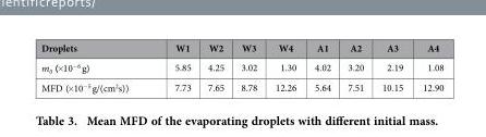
<table><thead><tr><td>Droplets</td><td>W1</td><td>W2</td><td>W3</td><td>W4</td><td>A1</td><td>A2</td><td>A3</td><td>A4</td></tr></thead><tbody><tr><td>m0 (×10−6 g)</td><td>5.85</td><td>4.25</td><td>3.02</td><td>1.30</td><td>4.02</td><td>3.20</td><td>2.19</td><td>1.08</td></tr><tr><td>MFD (×10−5 g/(cm2s))</td><td>7.73</td><td>7.65</td><td>8.78</td><td>12.26</td><td>5.64</td><td>7.51</td><td>10.15</td><td>12.90</td></tr></tbody></table>